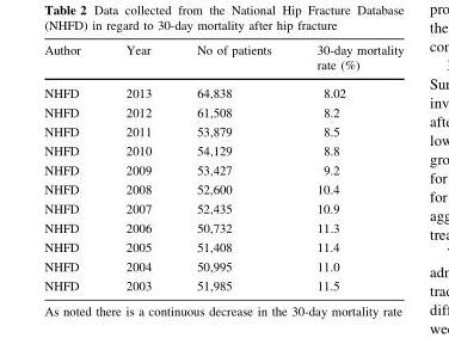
<table><thead><tr><td>Author</td><td>Year</td><td>No of patients</td><td>30-day mortality rate (%)</td></tr></thead><tbody><tr><td>NHFD</td><td>2013</td><td>64,838</td><td>8.02</td></tr><tr><td>NHFD</td><td>2012</td><td>61,508</td><td>8.2</td></tr><tr><td>NHFD</td><td>2011</td><td>53,879</td><td>8.5</td></tr><tr><td>NHFD</td><td>2010</td><td>54,129</td><td>8.8</td></tr><tr><td>NHFD</td><td>2009</td><td>53,427</td><td>9.2</td></tr><tr><td>NHFD</td><td>2008</td><td>52,600</td><td>10.4</td></tr><tr><td>NHFD</td><td>2007</td><td>52,435</td><td>10.9</td></tr><tr><td>NHFD</td><td>2006</td><td>50,732</td><td>11.3</td></tr><tr><td>NHFD</td><td>2005</td><td>51,408</td><td>11.4</td></tr><tr><td>NHFD</td><td>2004</td><td>50,995</td><td>11.0</td></tr><tr><td>NHFD</td><td>2003</td><td>51,985</td><td>11.5</td></tr></tbody></table>